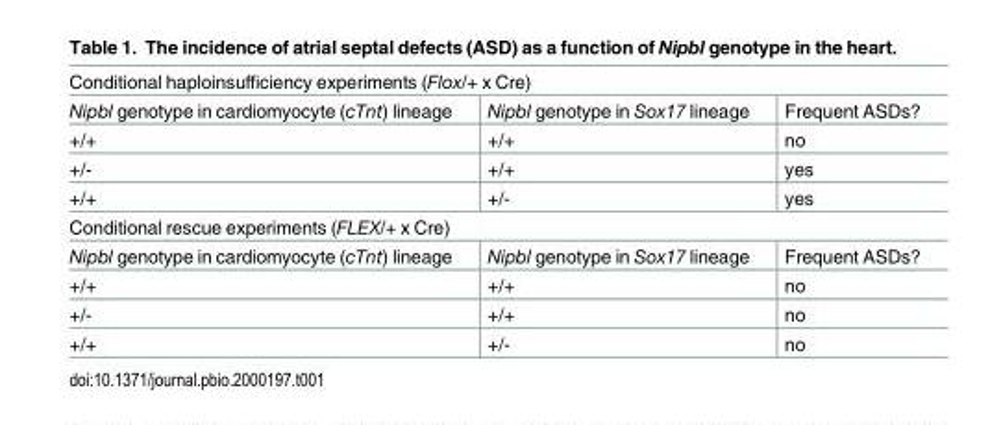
<table><tbody><tr><td colspan="3">Conditional haploinsufficiency experiments (Flox/+ x Cre)</td></tr><tr><td>Nipbl genotype in cardiomyocyte (cTnt) lineage</td><td>Nipbl genotype in Sox17 lineage</td><td>Frequent ASDs?</td></tr><tr><td>+/+</td><td>+/+</td><td>no</td></tr><tr><td>+/-</td><td>+/+</td><td>yes</td></tr><tr><td>+/+</td><td>+/-</td><td>yes</td></tr><tr><td colspan="3">Conditional rescue experiments (FLEX/+ x Cre)</td></tr><tr><td>Nipbl genotype in cardiomyocyte (cTnt) lineage</td><td>Nipbl genotype in Sox17 lineage</td><td>Frequent ASDs?</td></tr><tr><td>+/+</td><td>+/+</td><td>no</td></tr><tr><td>+/-</td><td>+/+</td><td>no</td></tr><tr><td>+/+</td><td>+/-</td><td>no</td></tr></tbody></table>